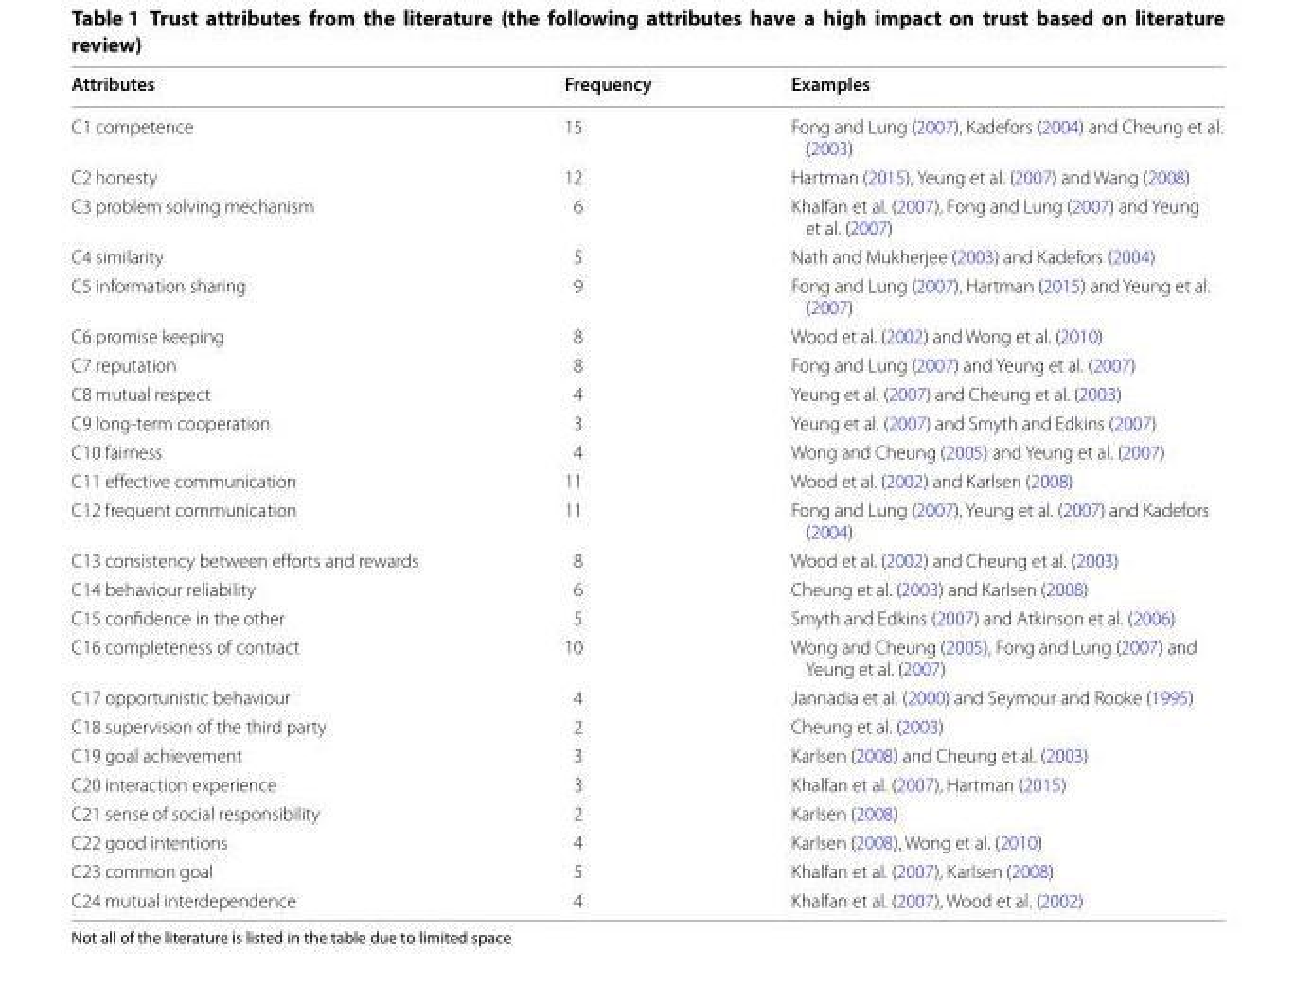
<table><thead><tr><td>Attributes</td><td>Frequency</td><td>Examples</td></tr></thead><tbody><tr><td>C1 competence</td><td>15</td><td>Fong and Lung (2007), Kadefors (2004) and Cheung et al. (2003)</td></tr><tr><td>C2 honesty</td><td>12</td><td>Hartman (2015), Yeung et al. (2007) and Wang (2008)</td></tr><tr><td>C3 problem solving mechanism</td><td>6</td><td>Khalfan et al. (2007), Fong and Lung (2007) and Yeung et al. (2007)</td></tr><tr><td>C4 similarity</td><td>5</td><td>Nath and Mukherjee (2003) and Kadefors (2004)</td></tr><tr><td>C5 information sharing</td><td>9</td><td>Fong and Lung (2007), Hartman (2015) and Yeung et al. (2007)</td></tr><tr><td>C6 promise keeping</td><td>8</td><td>Wood et al. (2002) and Wong et al. (2010)</td></tr><tr><td>C7 reputation</td><td>8</td><td>Fong and Lung (2007) and Yeung et al. (2007)</td></tr><tr><td>C8 mutual respect</td><td>4</td><td>Yeung et al. (2007) and Cheung et al. (2003)</td></tr><tr><td>C9 long-term cooperation</td><td>3</td><td>Yeung et al. (2007) and Smyth and Edkins (2007)</td></tr><tr><td>C10 fairness</td><td>4</td><td>Wong and Cheung (2005) and Yeung et al. (2007)</td></tr><tr><td>C11 effective communication</td><td>11</td><td>Wood et al. (2002) and Karlsen (2008)</td></tr><tr><td>C12 frequent communication</td><td>11</td><td>Fong and Lung (2007), Yeung et al. (2007) and Kadefors (2004)</td></tr><tr><td>C13 consistency between efforts and rewards</td><td>8</td><td>Wood et al. (2002) and Cheung et al. (2003)</td></tr><tr><td>C14 behaviour reliability</td><td>6</td><td>Cheung et al. (2003) and Karlsen (2008)</td></tr><tr><td>C15 confidence in the other</td><td>5</td><td>Smyth and Edkins (2007) and Atkinson et al. (2006)</td></tr><tr><td>C16 completeness of contract</td><td>10</td><td>Wong and Cheung (2005), Fong and Lung (2007) and Yeung et al. (2007)</td></tr><tr><td>C17 opportunistic behaviour</td><td>4</td><td>Jannadia et al. (2000) and Seymour and Rooke (1995)</td></tr><tr><td>C18 supervision of the third party</td><td>2</td><td>Cheung et al. (2003)</td></tr><tr><td>C19 goal achievement</td><td>3</td><td>Karlsen (2008) and Cheung et al. (2003)</td></tr><tr><td>C20 interaction experience</td><td>3</td><td>Khalfan et al. (2007), Hartman (2015)</td></tr><tr><td>C21 sense of social responsibility</td><td>2</td><td>Karlsen (2008)</td></tr><tr><td>C22 good intentions</td><td>4</td><td>Karlsen (2008), Wong et al. (2010)</td></tr><tr><td>C23 common goal</td><td>5</td><td>Khalfan et al. (2007), Karlsen (2008)</td></tr><tr><td>C24 mutual interdependence</td><td>4</td><td>Khalfan et al. (2007), Wood et al. (2002)</td></tr></tbody></table>